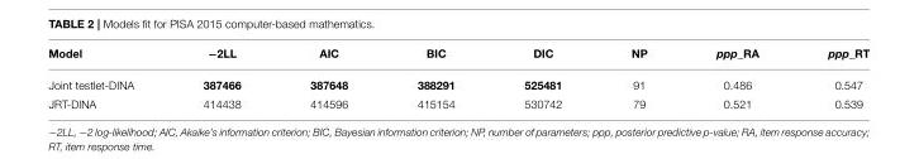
<table><thead><tr><td>Model</td><td>−2LL</td><td>AIC</td><td>BIC</td><td>DIC</td><td>NP</td><td>ppp_RA</td><td>ppp_RT</td></tr></thead><tbody><tr><td>Joint testlet-DINA</td><td>387466</td><td>387648</td><td>388291</td><td>525481</td><td>91</td><td>0.486</td><td>0.547</td></tr><tr><td>JRT-DINA</td><td>414438</td><td>414596</td><td>415154</td><td>530742</td><td>79</td><td>0.521</td><td>0.539</td></tr></tbody></table>